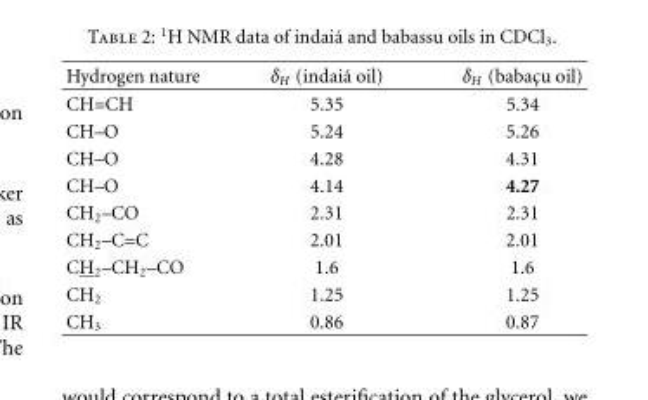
<table><thead><tr><td>Hydrogen nature</td><td>δH (indai´a oil)</td><td>δH (babac¸u oil)</td></tr></thead><tbody><tr><td>CH=CH</td><td>5.35</td><td>5.34</td></tr><tr><td>CH–O</td><td>5.24</td><td>5.26</td></tr><tr><td>CH–O</td><td>4.28</td><td>4.31</td></tr><tr><td>CH–O</td><td>4.14</td><td>4.27</td></tr><tr><td>CH<sub>2</sub>–CO</td><td>2.31</td><td>2.31</td></tr><tr><td>CH<sub>2</sub>–C=C</td><td>2.01</td><td>2.01</td></tr><tr><td>CH<sub>2</sub>–CH<sub>2</sub>–CO</td><td>1.6</td><td>1.6</td></tr><tr><td>CH<sub>2</sub></td><td>1.25</td><td>1.25</td></tr><tr><td>CH<sub>3</sub></td><td>0.86</td><td>0.87</td></tr></tbody></table>